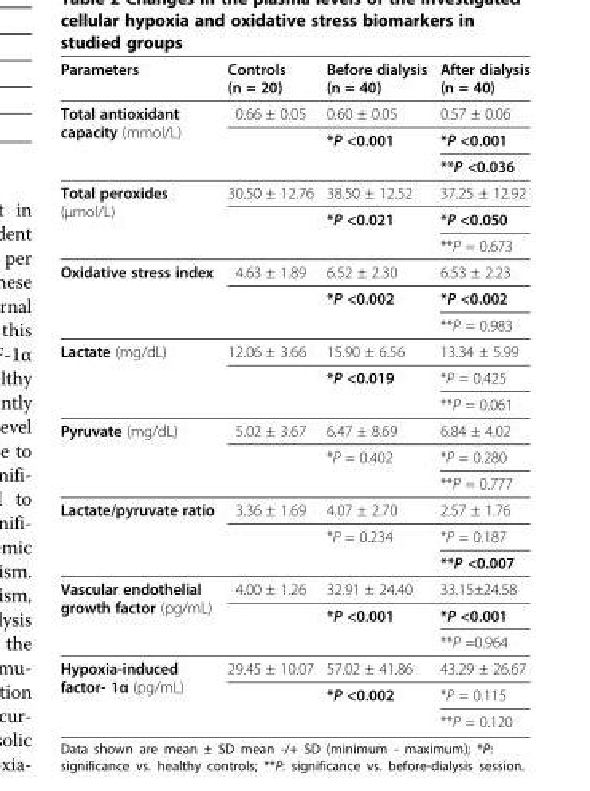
<table><thead><tr><td>Parameters</td><td>Controls (n = 20)</td><td>Before dialysis (n = 40)</td><td>After dialysis (n = 40)</td></tr></thead><tbody><tr><td rowspan="3">Total antioxidant capacity (mmol/L)</td><td>0.66 ± 0.05</td><td>0.60 ± 0.05</td><td>0.57 ± 0.06</td></tr><tr><td rowspan="2"></td><td rowspan="2">*P &lt;0.001</td><td>*P &lt;0.001</td></tr><tr><td>**P &lt;0.036</td></tr><tr><td rowspan="3">Total peroxides (μmol/L)</td><td>30.50 ± 12.76</td><td>38.50 ± 12.52</td><td>37.25 ± 12.92</td></tr><tr><td rowspan="2"></td><td rowspan="2">*P &lt;0.021</td><td>*P &lt;0.050</td></tr><tr><td>**P = 0.673</td></tr><tr><td rowspan="3">Oxidative stress index</td><td>4.63 ± 1.89</td><td>6.52 ± 2.30</td><td>6.53 ± 2.23</td></tr><tr><td rowspan="2"></td><td rowspan="2">*P &lt;0.002</td><td>*P &lt;0.002</td></tr><tr><td>**P = 0.983</td></tr><tr><td rowspan="3">Lactate (mg/dL)</td><td>12.06 ± 3.66</td><td>15.90 ± 6.56</td><td>13.34 ± 5.99</td></tr><tr><td rowspan="2"></td><td rowspan="2">*P &lt;0.019</td><td>*P = 0.425</td></tr><tr><td>**P = 0.061</td></tr><tr><td rowspan="3">Pyruvate (mg/dL)</td><td>5.02 ± 3.67</td><td>6.47 ± 8.69</td><td>6.84 ± 4.02</td></tr><tr><td rowspan="2"></td><td rowspan="2">*P = 0.402</td><td>*P = 0.280</td></tr><tr><td>**P = 0.777</td></tr><tr><td rowspan="3">Lactate/pyruvate ratio</td><td>3.36 ± 1.69</td><td>4.07 ± 2.70</td><td>2.57 ± 1.76</td></tr><tr><td rowspan="2"></td><td rowspan="2">*P = 0.234</td><td>*P = 0.187</td></tr><tr><td>**P &lt;0.007</td></tr><tr><td rowspan="3">Vascular endothelial growth factor (pg/mL)</td><td>4.00 ± 1.26</td><td>32.91 ± 24.40</td><td>33.15±24.58</td></tr><tr><td rowspan="2"></td><td rowspan="2">*P &lt;0.001</td><td>*P &lt;0.001</td></tr><tr><td>**P =0.964</td></tr><tr><td rowspan="3">Hypoxia-induced factor- 1α (pg/mL)</td><td>29.45 ± 10.07</td><td>57.02 ± 41.86</td><td>43.29 ± 26.67</td></tr><tr><td rowspan="2"></td><td rowspan="2">*P &lt;0.002</td><td>*P = 0.115</td></tr><tr><td>**P = 0.120</td></tr></tbody></table>